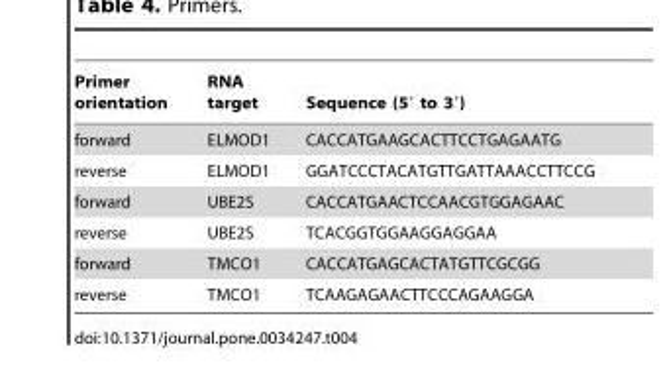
<table><thead><tr><td>Primer orientation</td><td>RNA target</td><td>Sequence (5′ to 3′)</td></tr></thead><tbody><tr><td>forward</td><td>ELMOD1</td><td>CACCATGAAGCACTTCCTGAGAATG</td></tr><tr><td>reverse</td><td>ELMOD1</td><td>GGATCCCTACATGTTGATTAAACCTTCCG</td></tr><tr><td>forward</td><td>UBE2S</td><td>CACCATGAACTCCAACGTGGAGAAC</td></tr><tr><td>reverse</td><td>UBE2S</td><td>TCACGGTGGAAGGAGGAA</td></tr><tr><td>forward</td><td>TMCO1</td><td>CACCATGAGCACTATGTTCGCGG</td></tr><tr><td>reverse</td><td>TMCO1</td><td>TCAAGAGAACTTCCCAGAAGGA</td></tr></tbody></table>